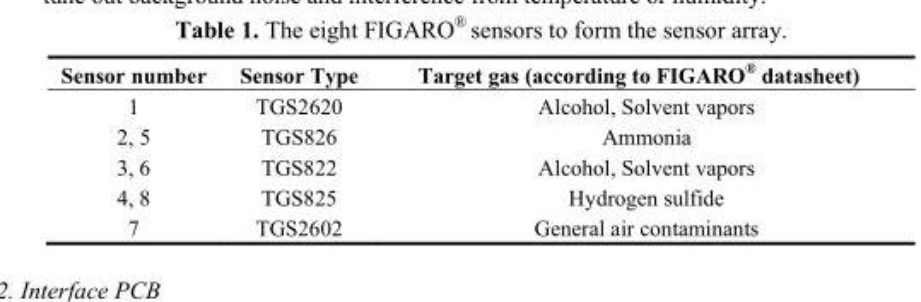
<table><thead><tr><td>Sensor number</td><td>Sensor Type</td><td>Target gas (according to FIGARO<sup>®</sup> datasheet)</td></tr></thead><tbody><tr><td>1</td><td>TGS2620</td><td>Alcohol, Solvent vapors</td></tr><tr><td>2, 5</td><td>TGS826</td><td>Ammonia</td></tr><tr><td>3, 6</td><td>TGS822</td><td>Alcohol, Solvent vapors</td></tr><tr><td>4, 8</td><td>TGS825</td><td>Hydrogen sulfide</td></tr><tr><td>7</td><td>TGS2602</td><td>General air contaminants</td></tr></tbody></table>